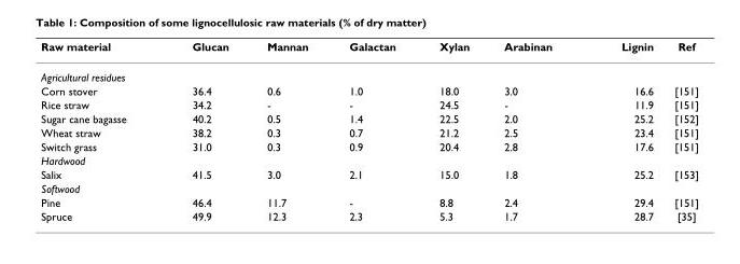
<table><thead><tr><td>Raw material</td><td>Glucan</td><td>Mannan</td><td>Galactan</td><td>Xylan</td><td>Arabinan</td><td>Lignin</td><td>Ref</td></tr></thead><tbody><tr><td colspan="8">Agricultural residues</td></tr><tr><td>Corn stover</td><td>36.4</td><td>0.6</td><td>1.0</td><td>18.0</td><td>3.0</td><td>16.6</td><td>[151]</td></tr><tr><td>Rice straw</td><td>34.2</td><td>-</td><td>-</td><td>24.5</td><td>-</td><td>11.9</td><td>[151]</td></tr><tr><td>Sugar cane bagasse</td><td>40.2</td><td>0.5</td><td>1.4</td><td>22.5</td><td>2.0</td><td>25.2</td><td>[152]</td></tr><tr><td>Wheat straw</td><td>38.2</td><td>0.3</td><td>0.7</td><td>21.2</td><td>2.5</td><td>23.4</td><td>[151]</td></tr><tr><td>Switch grass</td><td>31.0</td><td>0.3</td><td>0.9</td><td>20.4</td><td>2.8</td><td>17.6</td><td>[151]</td></tr><tr><td colspan="8">Hardwood</td></tr><tr><td>Salix</td><td>41.5</td><td>3.0</td><td>2.1</td><td>15.0</td><td>1.8</td><td>25.2</td><td>[153]</td></tr><tr><td colspan="8">Softwood</td></tr><tr><td>Pine</td><td>46.4</td><td>11.7</td><td>-</td><td>8.8</td><td>2.4</td><td>29.4</td><td>[151]</td></tr><tr><td>Spruce</td><td>49.9</td><td>12.3</td><td>2.3</td><td>5.3</td><td>1.7</td><td>28.7</td><td>[35]</td></tr></tbody></table>